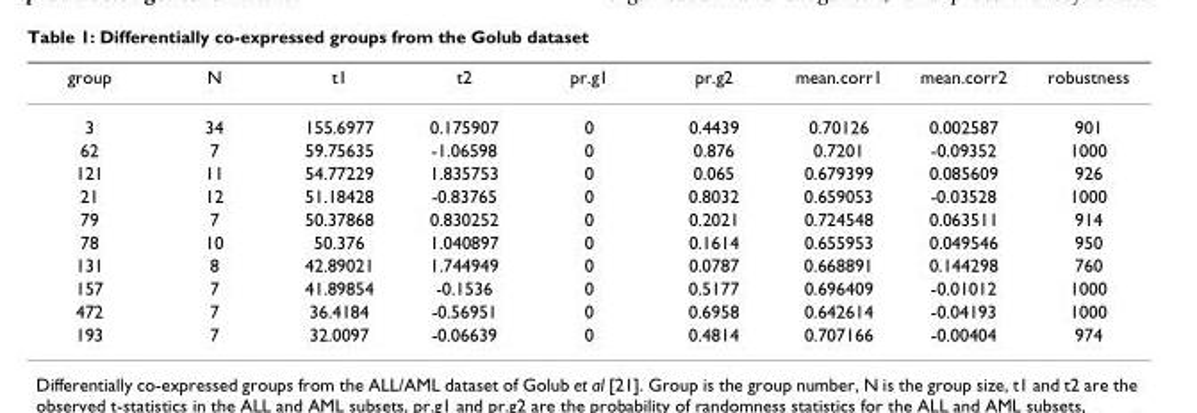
<table><thead><tr><td>group</td><td>N</td><td>t1</td><td>t2</td><td>pr.g1</td><td>pr.g2</td><td>mean.corr1</td><td>mean.corr2</td><td>robustness</td></tr></thead><tbody><tr><td>3</td><td>34</td><td>155.6977</td><td>0.175907</td><td>0</td><td>0.4439</td><td>0.70126</td><td>0.002587</td><td>901</td></tr><tr><td>62</td><td>7</td><td>59.75635</td><td>-1.06598</td><td>0</td><td>0.876</td><td>0.7201</td><td>-0.09352</td><td>1000</td></tr><tr><td>121</td><td>11</td><td>54.77229</td><td>1.835753</td><td>0</td><td>0.065</td><td>0.679399</td><td>0.085609</td><td>926</td></tr><tr><td>21</td><td>12</td><td>51.18428</td><td>-0.83765</td><td>0</td><td>0.8032</td><td>0.659053</td><td>-0.03528</td><td>1000</td></tr><tr><td>79</td><td>7</td><td>50.37868</td><td>0.830252</td><td>0</td><td>0.2021</td><td>0.724548</td><td>0.063511</td><td>914</td></tr><tr><td>78</td><td>10</td><td>50.376</td><td>1.040897</td><td>0</td><td>0.1614</td><td>0.655953</td><td>0.049546</td><td>950</td></tr><tr><td>131</td><td>8</td><td>42.89021</td><td>1.744949</td><td>0</td><td>0.0787</td><td>0.668891</td><td>0.144298</td><td>760</td></tr><tr><td>157</td><td>7</td><td>41.89854</td><td>-0.1536</td><td>0</td><td>0.5177</td><td>0.696409</td><td>-0.01012</td><td>1000</td></tr><tr><td>472</td><td>7</td><td>36.4184</td><td>-0.56951</td><td>0</td><td>0.6958</td><td>0.642614</td><td>-0.04193</td><td>1000</td></tr><tr><td>193</td><td>7</td><td>32.0097</td><td>-0.06639</td><td>0</td><td>0.4814</td><td>0.707166</td><td>-0.00404</td><td>974</td></tr></tbody></table>